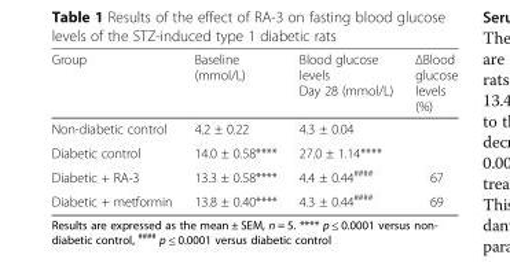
<table><thead><tr><td>Group</td><td>Baseline (mmol/L)</td><td>Blood glucose levels Day 28 (mmol/L)</td><td>ΔBlood glucose levels (%)</td></tr></thead><tbody><tr><td>Non-diabetic control</td><td>4.2 ± 0.22</td><td>4.3 ± 0.04</td><td></td></tr><tr><td>Diabetic control</td><td>14.0 ± 0.58****</td><td>27.0 ± 1.14****</td><td></td></tr><tr><td>Diabetic + RA-3</td><td>13.3 ± 0.58****</td><td>4.4 ± 0.44<sup>####</sup></td><td>67</td></tr><tr><td>Diabetic + metformin</td><td>13.8 ± 0.40****</td><td>4.3 ± 0.44<sup>####</sup></td><td>69</td></tr></tbody></table>